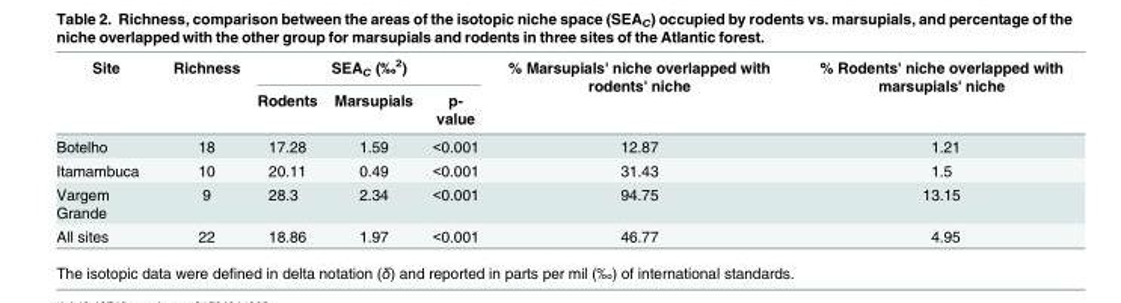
<table><thead><tr><td rowspan="2">Site</td><td rowspan="2">Richness</td><td colspan="3">SEA<sub>C</sub> (‰<sup>2</sup>)</td><td rowspan="2">% Marsupials&#x27; niche overlapped with rodents&#x27; niche</td><td rowspan="2">% Rodents&#x27; niche overlapped with marsupials&#x27; niche</td></tr><tr><td>Rodents</td><td>Marsupials</td><td>p- value</td></tr></thead><tbody><tr><td>Botelho</td><td>18</td><td>17.28</td><td>1.59</td><td>&lt;0.001</td><td>12.87</td><td>1.21</td></tr><tr><td>Itamambuca</td><td>10</td><td>20.11</td><td>0.49</td><td>&lt;0.001</td><td>31.43</td><td>1.5</td></tr><tr><td>Vargem Grande</td><td>9</td><td>28.3</td><td>2.34</td><td>&lt;0.001</td><td>94.75</td><td>13.15</td></tr><tr><td>All sites</td><td>22</td><td>18.86</td><td>1.97</td><td>&lt;0.001</td><td>46.77</td><td>4.95</td></tr></tbody></table>